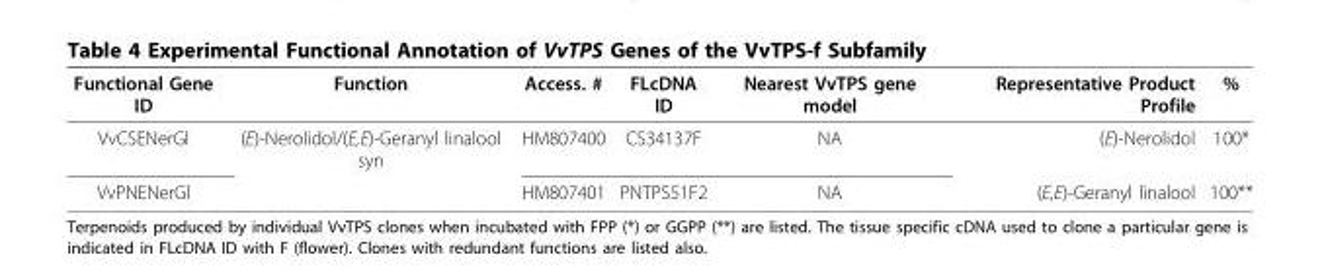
<table><thead><tr><td>Functional Gene ID</td><td>Function</td><td>Access. #</td><td>FLcDNA ID</td><td>Nearest VvTPS gene model</td><td>Representative Product Profile</td><td>%</td></tr></thead><tbody><tr><td>VvCSENerGl</td><td>(E)-Nerolidol/(E,E)-Geranyl linalool syn</td><td>HM807400</td><td>CS34137F</td><td>NA</td><td>(E)-Nerolidol</td><td>100*</td></tr><tr><td>VvPNENerGl</td><td></td><td>HM807401</td><td>PNTPS51F2</td><td>NA</td><td>(E,E)-Geranyl linalool</td><td>100**</td></tr></tbody></table>